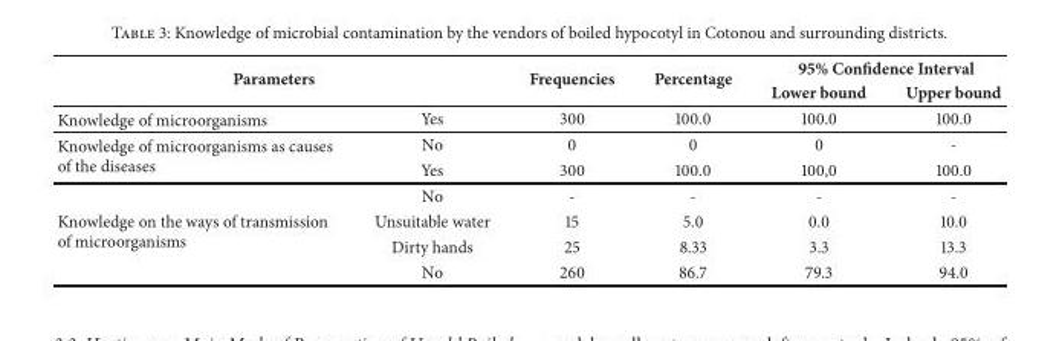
<table><thead><tr><td rowspan="2" colspan="2">Parameters</td><td rowspan="3">Frequencies 300</td><td rowspan="3">Percentage 100.0</td><td colspan="2">95% Confidence Interval</td></tr><tr><td rowspan="2">Lower bound 100.0</td><td rowspan="2">Upper bound 100.0</td></tr><tr><td>Knowledge of microorganisms</td><td>Yes</td></tr></thead><tbody><tr><td rowspan="2">Knowledge of microorganisms as causes of the diseases</td><td>No</td><td>0</td><td>0</td><td>0</td><td>-</td></tr><tr><td>Yes</td><td>300</td><td>100.0</td><td>100,0</td><td>100.0</td></tr><tr><td rowspan="4">Knowledge on the ways of transmission of microorganisms</td><td>No</td><td>-</td><td>-</td><td>-</td><td>-</td></tr><tr><td>Unsuitable water</td><td>15</td><td>5.0</td><td>0.0</td><td>10.0</td></tr><tr><td>Dirty hands</td><td>25</td><td>8.33</td><td>3.3</td><td>13.3</td></tr><tr><td>No</td><td>260</td><td>86.7</td><td>79.3</td><td>94.0</td></tr></tbody></table>